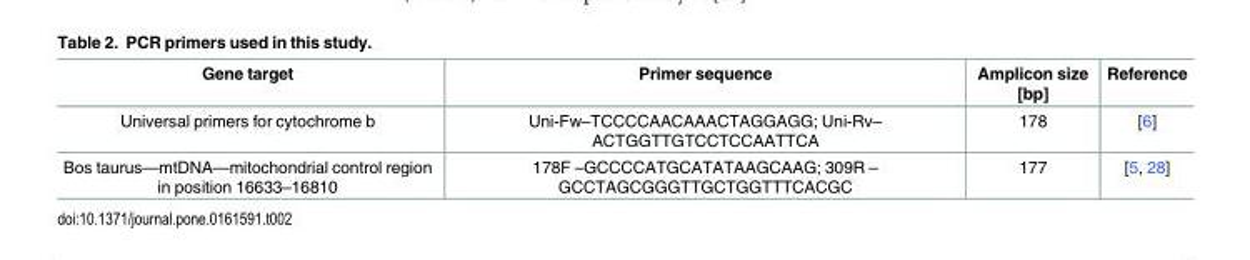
<table><thead><tr><td>Gene target</td><td>Primer sequence</td><td>Amplicon size [bp]</td><td>Reference</td></tr></thead><tbody><tr><td>Universal primers for cytochrome b</td><td>Uni-Fw–TCCCCAACAAACTAGGAGG; Uni-Rv– ACTGGTTGTCCTCCAATTCA</td><td>178</td><td>[6]</td></tr><tr><td>Bos taurus—mtDNA—mitochondrial control region in position 16633–16810</td><td>178F –GCCCCATGCATATAAGCAAG; 309R – GCCTAGCGGGTTGCTGGTTTCACGC</td><td>177</td><td>[5, 28]</td></tr></tbody></table>